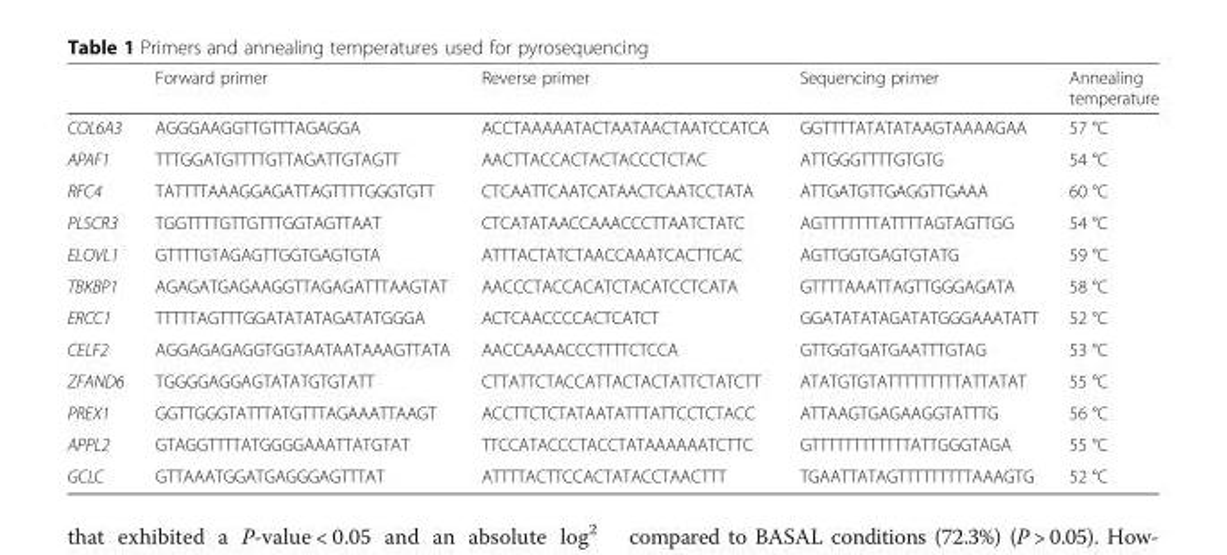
<table><thead><tr><td></td><td>Forward primer</td><td>Reverse primer</td><td>Sequencing primer</td><td>Annealing temperature</td></tr></thead><tbody><tr><td>COL6A3</td><td>AGGGAAGGTTGTTTAGAGGA</td><td>ACCTAAAAATACTAATAACTAATCCATCA</td><td>GGTTTTATATATAAGTAAAAGAA</td><td>57 °C</td></tr><tr><td>APAF1</td><td>TTTGGATGTTTTGTTAGATTGTAGTT</td><td>AACTTACCACTACTACCCTCTAC</td><td>ATTGGGTTTTGTGTG</td><td>54 °C</td></tr><tr><td>RFC4</td><td>TATTTTAAAGGAGATTAGTTTTGGGTGTT</td><td>CTCAATTCAATCATAACTCAATCCTATA</td><td>ATTGATGTTGAGGTTGAAA</td><td>60 °C</td></tr><tr><td>PLSCR3</td><td>TGGTTTTGTTGTTTGGTAGTTAAT</td><td>CTCATATAACCAAACCCTTAATCTATC</td><td>AGTTTTTTTATTTTAGTAGTTGG</td><td>54 °C</td></tr><tr><td>ELOVL1</td><td>GTTTTGTAGAGTTGGTGAGTGTA</td><td>ATTTACTATCTAACCAAATCACTTCAC</td><td>AGTTGGTGAGTGTATG</td><td>59 °C</td></tr><tr><td>TBKBP1</td><td>AGAGATGAGAAGGTTAGAGATTTAAGTAT</td><td>AACCCTACCACATCTACATCCTCATA</td><td>GTTTTAAATTAGTTGGGAGATA</td><td>58 °C</td></tr><tr><td>ERCC1</td><td>TTTTTAGTTTGGATATATAGATATGGGA</td><td>ACTCAACCCCACTCATCT</td><td>GGATATATAGATATGGGAAATATT</td><td>52 °C</td></tr><tr><td>CELF2</td><td>AGGAGAGAGGTGGTAATAATAAAGTTATA</td><td>AACCAAAACCCTTTTCTCCA</td><td>GTTGGTGATGAATTTGTAG</td><td>53 °C</td></tr><tr><td>ZFAND6</td><td>TGGGGAGGAGTATATGTGTATT</td><td>CTTATTCTACCATTACTACTATTCTATCTT</td><td>ATATGTGTATTTTTTTTTATTATAT</td><td>55 °C</td></tr><tr><td>PREX1</td><td>GGTTGGGTATTTATGTTTAGAAATTAAGT</td><td>ACCTTCTCTATAATATTTATTCCTCTACC</td><td>ATTAAGTGAGAAGGTATTTG</td><td>56 °C</td></tr><tr><td>APPL2</td><td>GTAGGTTTTATGGGGAAATTATGTAT</td><td>TTCCATACCCTACCTATAAAAAATCTTC</td><td>GTTTTTTTTTTTTATTGGGTAGA</td><td>55 °C</td></tr><tr><td>GCLC</td><td>GTTAAATGGATGAGGGAGTTTAT</td><td>ATTTTACTTCCACTATACCTAACTTT</td><td>TGAATTATAGTTTTTTTTTAAAGTG</td><td>52 °C</td></tr></tbody></table>